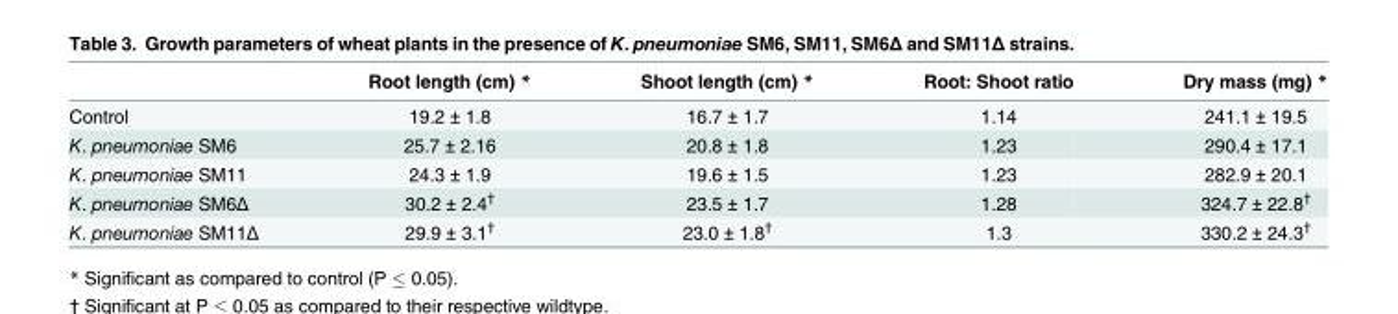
<table><thead><tr><td></td><td>Root length (cm) *</td><td>Shoot length (cm) *</td><td>Root: Shoot ratio</td><td>Dry mass (mg) *</td></tr></thead><tbody><tr><td>Control</td><td>19.2 ± 1.8</td><td>16.7 ± 1.7</td><td>1.14</td><td>241.1 ± 19.5</td></tr><tr><td>K. pneumoniae SM6</td><td>25.7 ± 2.16</td><td>20.8 ± 1.8</td><td>1.23</td><td>290.4 ± 17.1</td></tr><tr><td>K. pneumoniae SM11</td><td>24.3 ± 1.9</td><td>19.6 ± 1.5</td><td>1.23</td><td>282.9 ± 20.1</td></tr><tr><td>K. pneumoniae SM6Δ</td><td>30.2 ± 2.4<sup>†</sup></td><td>23.5 ± 1.7</td><td>1.28</td><td>324.7 ± 22.8<sup>†</sup></td></tr><tr><td>K. pneumoniae SM11Δ</td><td>29.9 ± 3.1<sup>†</sup></td><td>23.0 ± 1.8<sup>†</sup></td><td>1.3</td><td>330.2 ± 24.3<sup>†</sup></td></tr></tbody></table>